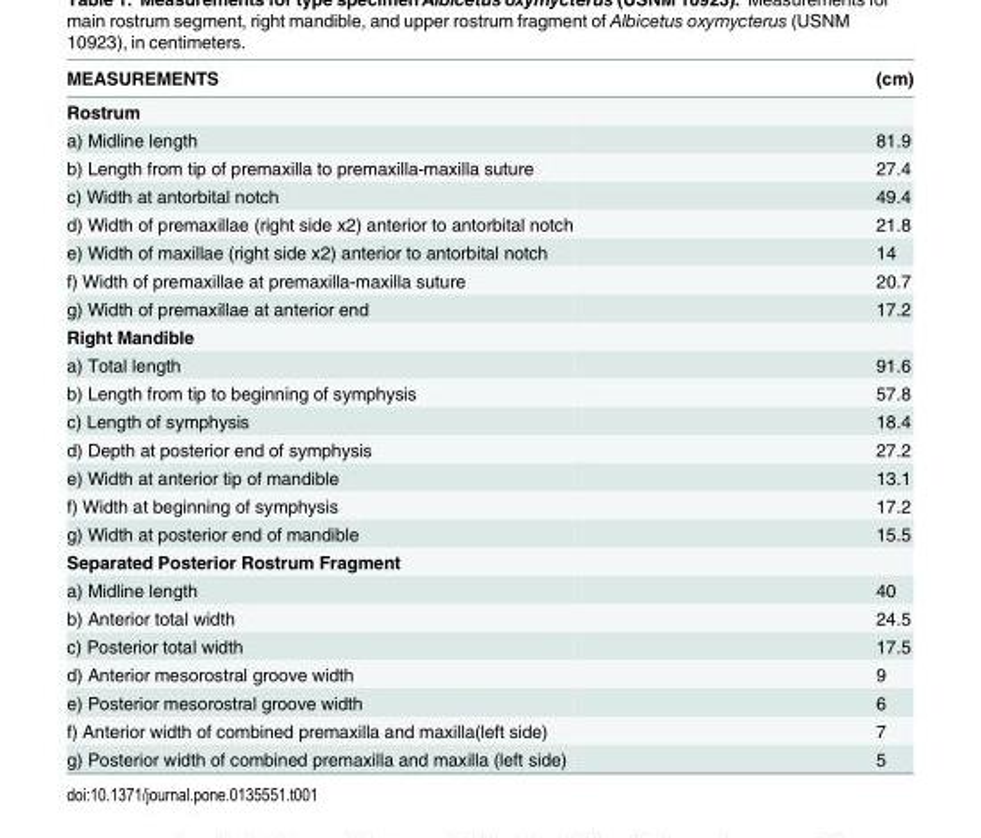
<table><thead><tr><td>MEASUREMENTS</td><td>(cm)</td></tr></thead><tbody><tr><td colspan="2">Rostrum</td></tr><tr><td>a) Midline length</td><td>81.9</td></tr><tr><td>b) Length from tip of premaxilla to premaxilla-maxilla suture</td><td>27.4</td></tr><tr><td>c) Width at antorbital notch</td><td>49.4</td></tr><tr><td>d) Width of premaxillae (right side x2) anterior to antorbital notch</td><td>21.8</td></tr><tr><td>e) Width of maxillae (right side x2) anterior to antorbital notch</td><td>14</td></tr><tr><td>f) Width of premaxillae at premaxilla-maxilla suture</td><td>20.7</td></tr><tr><td>g) Width of premaxillae at anterior end</td><td>17.2</td></tr><tr><td colspan="2">Right Mandible</td></tr><tr><td>a) Total length</td><td>91.6</td></tr><tr><td>b) Length from tip to beginning of symphysis</td><td>57.8</td></tr><tr><td>c) Length of symphysis</td><td>18.4</td></tr><tr><td>d) Depth at posterior end of symphysis</td><td>27.2</td></tr><tr><td>e) Width at anterior tip of mandible</td><td>13.1</td></tr><tr><td>f) Width at beginning of symphysis</td><td>17.2</td></tr><tr><td>g) Width at posterior end of mandible</td><td>15.5</td></tr><tr><td colspan="2">Separated Posterior Rostrum Fragment</td></tr><tr><td>a) Midline length</td><td>40</td></tr><tr><td>b) Anterior total width</td><td>24.5</td></tr><tr><td>c) Posterior total width</td><td>17.5</td></tr><tr><td>d) Anterior mesorostral groove width</td><td>9</td></tr><tr><td>e) Posterior mesorostral groove width</td><td>6</td></tr><tr><td>f) Anterior width of combined premaxilla and maxilla(left side)</td><td>7</td></tr><tr><td>g) Posterior width of combined premaxilla and maxilla (left side)</td><td>5</td></tr></tbody></table>